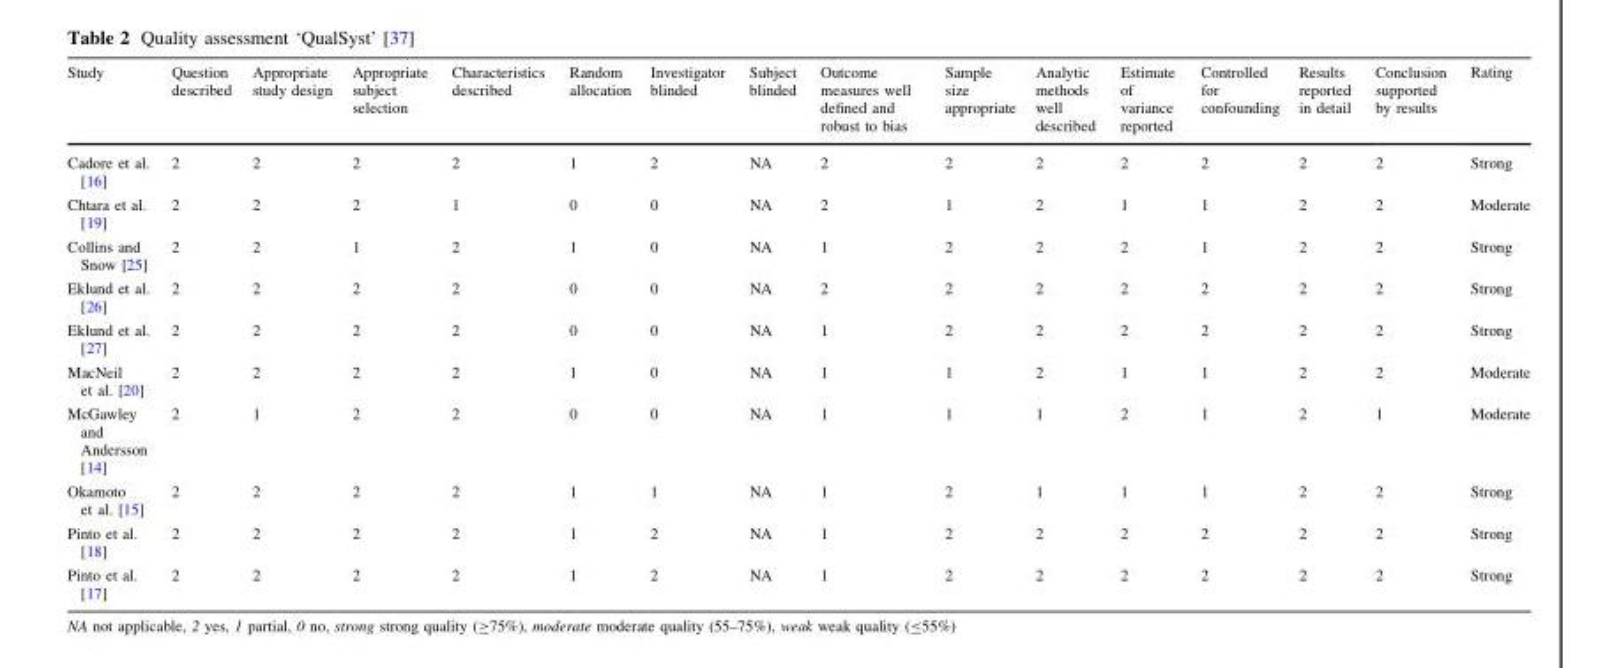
<table><thead><tr><td>Study</td><td>Question described</td><td>Appropriate study design</td><td>Appropriate subject selection</td><td>Characteristics described</td><td>Random allocation</td><td>Investigator blinded</td><td>Subject blinded</td><td>Outcome measures well defined and robust to bias</td><td>Sample size appropriate</td><td>Analytic methods well described</td><td>Estimate of variance reported</td><td>Controlled for confounding</td><td>Results reported in detail</td><td>Conclusion supported by results</td><td>Rating</td></tr></thead><tbody><tr><td>Cadore et al. [16]</td><td>2</td><td>2</td><td>2</td><td>2</td><td>1</td><td>2</td><td>NA</td><td>2</td><td>2</td><td>2</td><td>2</td><td>2</td><td>2</td><td>2</td><td>Strong</td></tr><tr><td>Chtara et al. [19]</td><td>2</td><td>2</td><td>2</td><td>1</td><td>0</td><td>0</td><td>NA</td><td>2</td><td>1</td><td>2</td><td>1</td><td>1</td><td>2</td><td>2</td><td>Moderate</td></tr><tr><td>Collins and Snow [25]</td><td>2</td><td>2</td><td>1</td><td>2</td><td>1</td><td>0</td><td>NA</td><td>1</td><td>2</td><td>2</td><td>2</td><td>1</td><td>2</td><td>2</td><td>Strong</td></tr><tr><td>Eklund et al. [26]</td><td>2</td><td>2</td><td>2</td><td>2</td><td>0</td><td>0</td><td>NA</td><td>2</td><td>2</td><td>2</td><td>2</td><td>2</td><td>2</td><td>2</td><td>Strong</td></tr><tr><td>Eklund et al. [27]</td><td>2</td><td>2</td><td>2</td><td>2</td><td>0</td><td>0</td><td>NA</td><td>1</td><td>2</td><td>2</td><td>2</td><td>2</td><td>2</td><td>2</td><td>Strong</td></tr><tr><td>MacNeil et al. [20]</td><td>2</td><td>2</td><td>2</td><td>2</td><td>1</td><td>0</td><td>NA</td><td>1</td><td>1</td><td>2</td><td>1</td><td>1</td><td>2</td><td>2</td><td>Moderate</td></tr><tr><td>McGawley and Andersson [14]</td><td>2</td><td>1</td><td>2</td><td>2</td><td>0</td><td>0</td><td>NA</td><td>1</td><td>1</td><td>1</td><td>2</td><td>1</td><td>2</td><td>1</td><td>Moderate</td></tr><tr><td>Okamoto et al. [15]</td><td>2</td><td>2</td><td>2</td><td>2</td><td>1</td><td>1</td><td>NA</td><td>1</td><td>2</td><td>1</td><td>1</td><td>1</td><td>2</td><td>2</td><td>Strong</td></tr><tr><td>Pinto et al. [18]</td><td>2</td><td>2</td><td>2</td><td>2</td><td>1</td><td>2</td><td>NA</td><td>1</td><td>2</td><td>2</td><td>2</td><td>2</td><td>2</td><td>2</td><td>Strong</td></tr><tr><td>Pinto et al. [17]</td><td>2</td><td>2</td><td>2</td><td>2</td><td>1</td><td>2</td><td>NA</td><td>1</td><td>2</td><td>2</td><td>2</td><td>2</td><td>2</td><td>2</td><td>Strong</td></tr></tbody></table>